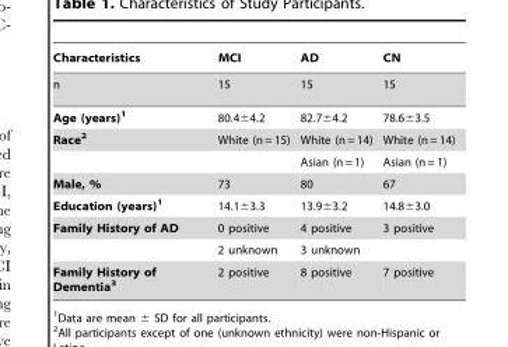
<table><thead><tr><td>Characteristics</td><td>MCI</td><td>AD</td><td>CN</td></tr></thead><tbody><tr><td>n</td><td>15</td><td>15</td><td>15</td></tr><tr><td>Age (years)1</td><td>80.4±4.2</td><td>82.7±4.2</td><td>78.6±3.5</td></tr><tr><td rowspan="2">Race2</td><td>White (n = 15)</td><td>White (n = 14)</td><td>White (n = 14)</td></tr><tr><td></td><td>Asian (n = 1)</td><td>Asian (n = 1)</td></tr><tr><td>Male, %</td><td>73</td><td>80</td><td>67</td></tr><tr><td>Education (years)1</td><td>14.1±3.3</td><td>13.9±3.2</td><td>14.8±3.0</td></tr><tr><td rowspan="2">Family History of AD</td><td>0 positive</td><td>4 positive</td><td>3 positive</td></tr><tr><td>2 unknown</td><td>3 unknown</td><td></td></tr><tr><td>Family History of Dementia3</td><td>2 positive</td><td>8 positive</td><td>7 positive</td></tr></tbody></table>